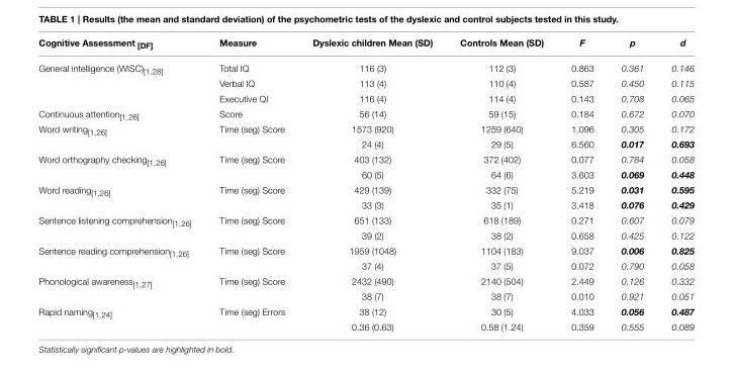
<table><thead><tr><td>Cognitive Assessment <sub>[DF]</sub></td><td>Measure</td><td>Dyslexic children Mean (SD)</td><td>Controls Mean (SD)</td><td>F</td><td>p</td><td>d</td></tr></thead><tbody><tr><td rowspan="3">General intelligence (WISC)<sub>[1,28]</sub></td><td>Total IQ</td><td>116 (3)</td><td>112 (3)</td><td>0.863</td><td>0.361</td><td>0.146</td></tr><tr><td>Verbal IQ</td><td>113 (4)</td><td>110 (4)</td><td>0.587</td><td>0.450</td><td>0.115</td></tr><tr><td>Executive QI</td><td>116 (4)</td><td>114 (4)</td><td>0.143</td><td>0.708</td><td>0.065</td></tr><tr><td>Continuous attention<sub>[1,26]</sub></td><td>Score</td><td>56 (14)</td><td>59 (15)</td><td>0.184</td><td>0.672</td><td>0.070</td></tr><tr><td rowspan="2">Word writing<sub>[1,26]</sub></td><td>Time (seg) Score</td><td>1573 (920)</td><td>1259 (640)</td><td>1.096</td><td>0.305</td><td>0.172</td></tr><tr><td></td><td>24 (4)</td><td>29 (5)</td><td>6.560</td><td>0.017</td><td>0.693</td></tr><tr><td rowspan="2">Word orthography checking<sub>[1,26]</sub></td><td>Time (seg) Score</td><td>403 (132)</td><td>372 (402)</td><td>0.077</td><td>0.784</td><td>0.058</td></tr><tr><td></td><td>60 (5)</td><td>64 (6)</td><td>3.603</td><td>0.069</td><td>0.448</td></tr><tr><td rowspan="2">Word reading<sub>[1,26]</sub></td><td>Time (seg) Score</td><td>429 (139)</td><td>332 (75)</td><td>5.219</td><td>0.031</td><td>0.595</td></tr><tr><td></td><td>33 (3)</td><td>35 (1)</td><td>3.418</td><td>0.076</td><td>0.429</td></tr><tr><td rowspan="2">Sentence listening comprehension[1,26]</td><td>Time (seg) Score</td><td>651 (133)</td><td>618 (189)</td><td>0.271</td><td>0.607</td><td>0.079</td></tr><tr><td></td><td>39 (2)</td><td>38 (2)</td><td>0.658</td><td>0.425</td><td>0.122</td></tr><tr><td rowspan="2">Sentence reading comprehension<sub>[1,26]</sub></td><td>Time (seg) Score</td><td>1959 (1048)</td><td>1104 (183)</td><td>9.037</td><td>0.006</td><td>0.825</td></tr><tr><td></td><td>37 (4)</td><td>37 (5)</td><td>0.072</td><td>0.790</td><td>0.058</td></tr><tr><td rowspan="2">Phonological awareness<sub>[1,27]</sub></td><td>Time (seg) Score</td><td>2432 (490)</td><td>2140 (504)</td><td>2.449</td><td>0.126</td><td>0.332</td></tr><tr><td></td><td>38 (7)</td><td>38 (7)</td><td>0.010</td><td>0.921</td><td>0.051</td></tr><tr><td rowspan="2">Rapid naming<sub>[1,24]</sub></td><td>Time (seg) Errors</td><td>38 (12)</td><td>30 (5)</td><td>4.033</td><td>0.056</td><td>0.487</td></tr><tr><td></td><td>0.36 (0.63)</td><td>0.58 (1.24)</td><td>0.359</td><td>0.555</td><td>0.089</td></tr></tbody></table>